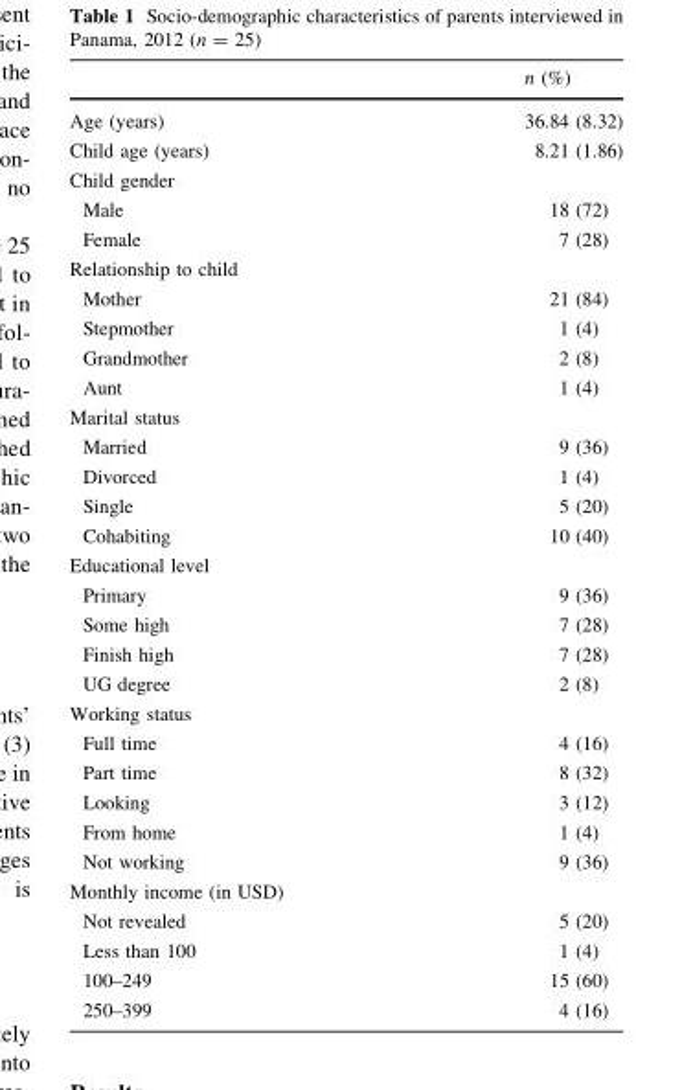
<table><thead><tr><td></td><td>n (%)</td></tr></thead><tbody><tr><td>Age (years)</td><td>36.84 (8.32)</td></tr><tr><td>Child age (years)</td><td>8.21 (1.86)</td></tr><tr><td colspan="2">Child gender</td></tr><tr><td>Male</td><td>18 (72)</td></tr><tr><td>Female</td><td>7 (28)</td></tr><tr><td colspan="2">Relationship to child</td></tr><tr><td>Mother</td><td>21 (84)</td></tr><tr><td>Stepmother</td><td>1 (4)</td></tr><tr><td>Grandmother</td><td>2 (8)</td></tr><tr><td>Aunt</td><td>1 (4)</td></tr><tr><td colspan="2">Marital status</td></tr><tr><td>Married</td><td>9 (36)</td></tr><tr><td>Divorced</td><td>1 (4)</td></tr><tr><td>Single</td><td>5 (20)</td></tr><tr><td>Cohabiting</td><td>10 (40)</td></tr><tr><td colspan="2">Educational level</td></tr><tr><td>Primary</td><td>9 (36)</td></tr><tr><td>Some high</td><td>7 (28)</td></tr><tr><td>Finish high</td><td>7 (28)</td></tr><tr><td>UG degree</td><td>2 (8)</td></tr><tr><td colspan="2">Working status</td></tr><tr><td>Full time</td><td>4 (16)</td></tr><tr><td>Part time</td><td>8 (32)</td></tr><tr><td>Looking</td><td>3 (12)</td></tr><tr><td>From home</td><td>1 (4)</td></tr><tr><td>Not working</td><td>9 (36)</td></tr><tr><td colspan="2">Monthly income (in USD)</td></tr><tr><td>Not revealed</td><td>5 (20)</td></tr><tr><td>Less than 100</td><td>1 (4)</td></tr><tr><td>100–249</td><td>15 (60)</td></tr><tr><td>250–399</td><td>4 (16)</td></tr></tbody></table>